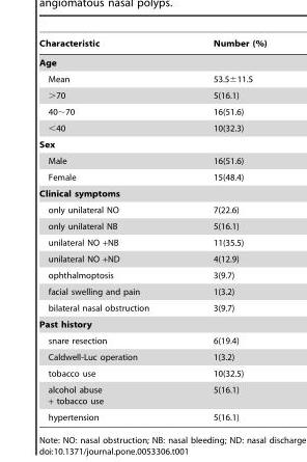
<table><thead><tr><td>Characteristic</td><td>Number (%)</td></tr></thead><tbody><tr><td colspan="2">Age</td></tr><tr><td>Mean</td><td>53.5±11.5</td></tr><tr><td>&gt;70</td><td>5(16.1)</td></tr><tr><td>40∼70</td><td>16(51.6)</td></tr><tr><td>&lt;40</td><td>10(32.3)</td></tr><tr><td colspan="2">Sex</td></tr><tr><td>Male</td><td>16(51.6)</td></tr><tr><td>Female</td><td>15(48.4)</td></tr><tr><td colspan="2">Clinical symptoms</td></tr><tr><td>only unilateral NO</td><td>7(22.6)</td></tr><tr><td>only unilateral NB</td><td>5(16.1)</td></tr><tr><td>unilateral NO +NB</td><td>11(35.5)</td></tr><tr><td>unilateral NO +ND</td><td>4(12.9)</td></tr><tr><td>ophthalmoptosis</td><td>3(9.7)</td></tr><tr><td>facial swelling and pain</td><td>1(3.2)</td></tr><tr><td>bilateral nasal obstruction</td><td>3(9.7)</td></tr><tr><td colspan="2">Past history</td></tr><tr><td>snare resection</td><td>6(19.4)</td></tr><tr><td>Caldwell-Luc operation</td><td>1(3.2)</td></tr><tr><td>tobacco use</td><td>10(32.5)</td></tr><tr><td>alcohol abuse + tobacco use</td><td>5(16.1)</td></tr><tr><td>hypertension</td><td>5(16.1)</td></tr></tbody></table>